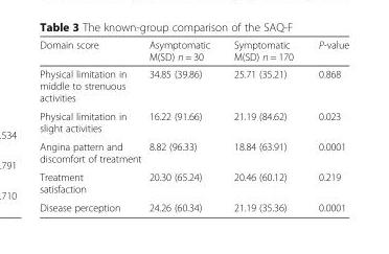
<table><thead><tr><td>Domain score</td><td>Asymptomatic M(SD) n = 30</td><td>Symptomatic M(SD) n = 170</td><td>P-value</td></tr></thead><tbody><tr><td>Physical limitation in middle to strenuous activities</td><td>34.85 (39.86)</td><td>25.71 (35.21)</td><td>0.868</td></tr><tr><td>Physical limitation in slight activities</td><td>16.22 (91.66)</td><td>21.19 (84.62)</td><td>0.023</td></tr><tr><td>Angina pattern and discomfort of treatment</td><td>8.82 (96.33)</td><td>18.84 (63.91)</td><td>0.0001</td></tr><tr><td>Treatment satisfaction</td><td>20.30 (65.24)</td><td>20.46 (60.12)</td><td>0.219</td></tr><tr><td>Disease perception</td><td>24.26 (60.34)</td><td>21.19 (35.36)</td><td>0.0001</td></tr></tbody></table>